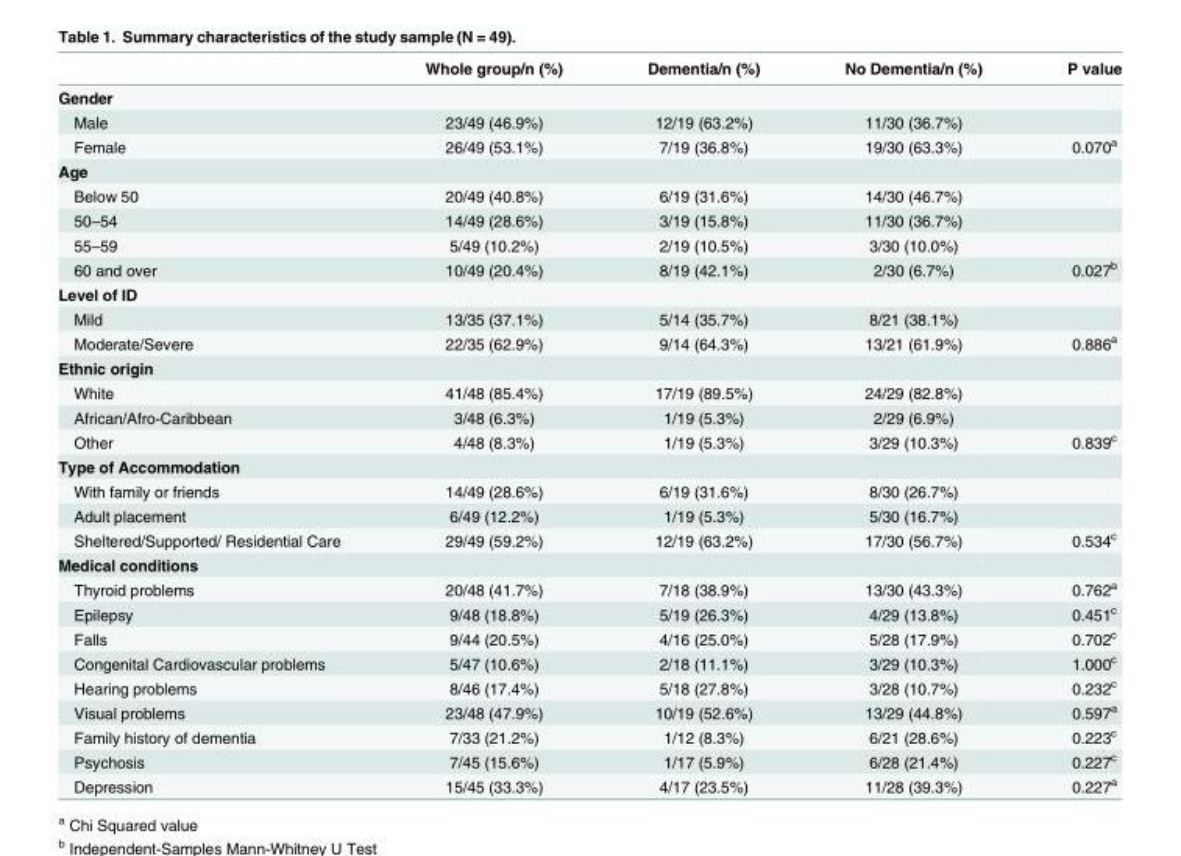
<table><thead><tr><td></td><td>Whole group/n (%)</td><td>Dementia/n (%)</td><td>No Dementia/n (%)</td><td>P value</td></tr></thead><tbody><tr><td colspan="5">Gender</td></tr><tr><td>Male</td><td>23/49 (46.9%)</td><td>12/19 (63.2%)</td><td>11/30 (36.7%)</td><td></td></tr><tr><td>Female</td><td>26/49 (53.1%)</td><td>7/19 (36.8%)</td><td>19/30 (63.3%)</td><td>0.070<sup>a</sup></td></tr><tr><td colspan="5">Age</td></tr><tr><td>Below 50</td><td>20/49 (40.8%)</td><td>6/19 (31.6%)</td><td>14/30 (46.7%)</td><td></td></tr><tr><td>50–54</td><td>14/49 (28.6%)</td><td>3/19 (15.8%)</td><td>11/30 (36.7%)</td><td></td></tr><tr><td>55–59</td><td>5/49 (10.2%)</td><td>2/19 (10.5%)</td><td>3/30 (10.0%)</td><td></td></tr><tr><td>60 and over</td><td>10/49 (20.4%)</td><td>8/19 (42.1%)</td><td>2/30 (6.7%)</td><td>0.027<sup>b</sup></td></tr><tr><td colspan="5">Level of ID</td></tr><tr><td>Mild</td><td>13/35 (37.1%)</td><td>5/14 (35.7%)</td><td>8/21 (38.1%)</td><td></td></tr><tr><td>Moderate/Severe</td><td>22/35 (62.9%)</td><td>9/14 (64.3%)</td><td>13/21 (61.9%)</td><td>0.886<sup>a</sup></td></tr><tr><td colspan="5">Ethnic origin</td></tr><tr><td>White</td><td>41/48 (85.4%)</td><td>17/19 (89.5%)</td><td>24/29 (82.8%)</td><td></td></tr><tr><td>African/Afro-Caribbean</td><td>3/48 (6.3%)</td><td>1/19 (5.3%)</td><td>2/29 (6.9%)</td><td></td></tr><tr><td>Other</td><td>4/48 (8.3%)</td><td>1/19 (5.3%)</td><td>3/29 (10.3%)</td><td>0.839<sup>c</sup></td></tr><tr><td colspan="5">Type of Accommodation</td></tr><tr><td>With family or friends</td><td>14/49 (28.6%)</td><td>6/19 (31.6%)</td><td>8/30 (26.7%)</td><td></td></tr><tr><td>Adult placement</td><td>6/49 (12.2%)</td><td>1/19 (5.3%)</td><td>5/30 (16.7%)</td><td></td></tr><tr><td>Sheltered/Supported/ Residential Care</td><td>29/49 (59.2%)</td><td>12/19 (63.2%)</td><td>17/30 (56.7%)</td><td>0.534<sup>c</sup></td></tr><tr><td colspan="5">Medical conditions</td></tr><tr><td>Thyroid problems</td><td>20/48 (41.7%)</td><td>7/18 (38.9%)</td><td>13/30 (43.3%)</td><td>0.762<sup>a</sup></td></tr><tr><td>Epilepsy</td><td>9/48 (18.8%)</td><td>5/19 (26.3%)</td><td>4/29 (13.8%)</td><td>0.451<sup>c</sup></td></tr><tr><td>Falls</td><td>9/44 (20.5%)</td><td>4/16 (25.0%)</td><td>5/28 (17.9%)</td><td>0.702<sup>c</sup></td></tr><tr><td>Congenital Cardiovascular problems</td><td>5/47 (10.6%)</td><td>2/18 (11.1%)</td><td>3/29 (10.3%)</td><td>1.000<sup>c</sup></td></tr><tr><td>Hearing problems</td><td>8/46 (17.4%)</td><td>5/18 (27.8%)</td><td>3/28 (10.7%)</td><td>0.232<sup>c</sup></td></tr><tr><td>Visual problems</td><td>23/48 (47.9%)</td><td>10/19 (52.6%)</td><td>13/29 (44.8%)</td><td>0.597<sup>a</sup></td></tr><tr><td>Family history of dementia</td><td>7/33 (21.2%)</td><td>1/12 (8.3%)</td><td>6/21 (28.6%)</td><td>0.223<sup>c</sup></td></tr><tr><td>Psychosis</td><td>7/45 (15.6%)</td><td>1/17 (5.9%)</td><td>6/28 (21.4%)</td><td>0.227<sup>c</sup></td></tr><tr><td>Depression</td><td>15/45 (33.3%)</td><td>4/17 (23.5%)</td><td>11/28 (39.3%)</td><td>0.227<sup>a</sup></td></tr></tbody></table>